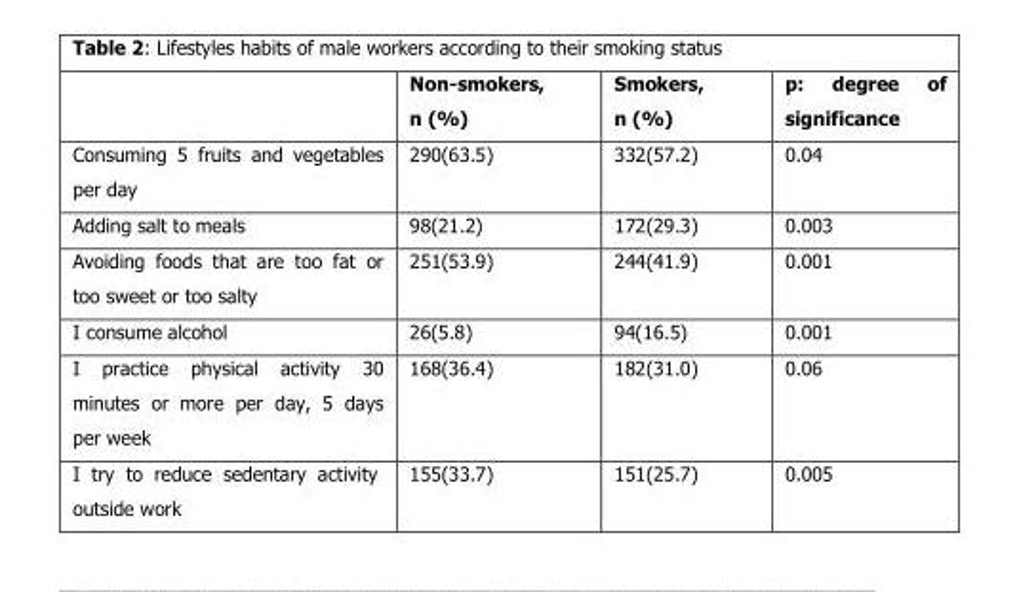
<table><thead><tr><td></td><td>Non-smokers, n (%)</td><td>Smokers, n (%)</td><td>p: degree of significance</td></tr></thead><tbody><tr><td>Consuming 5 fruits and vegetables per day</td><td>290(63.5)</td><td>332(57.2)</td><td>0.04</td></tr><tr><td>Adding salt to meals</td><td>98(21.2)</td><td>172(29.3)</td><td>0.003</td></tr><tr><td>Avoiding foods that are too fat or too sweet or too salty</td><td>251(53.9)</td><td>244(41.9)</td><td>0.001</td></tr><tr><td>I consume alcohol</td><td>26(5.8)</td><td>94(16.5)</td><td>0.001</td></tr><tr><td>I practice physical activity 30 minutes or more per day, 5 days per week</td><td>168(36.4)</td><td>182(31.0)</td><td>0.06</td></tr><tr><td>I try to reduce sedentary activity outside work</td><td>155(33.7)</td><td>151(25.7)</td><td>0.005</td></tr></tbody></table>